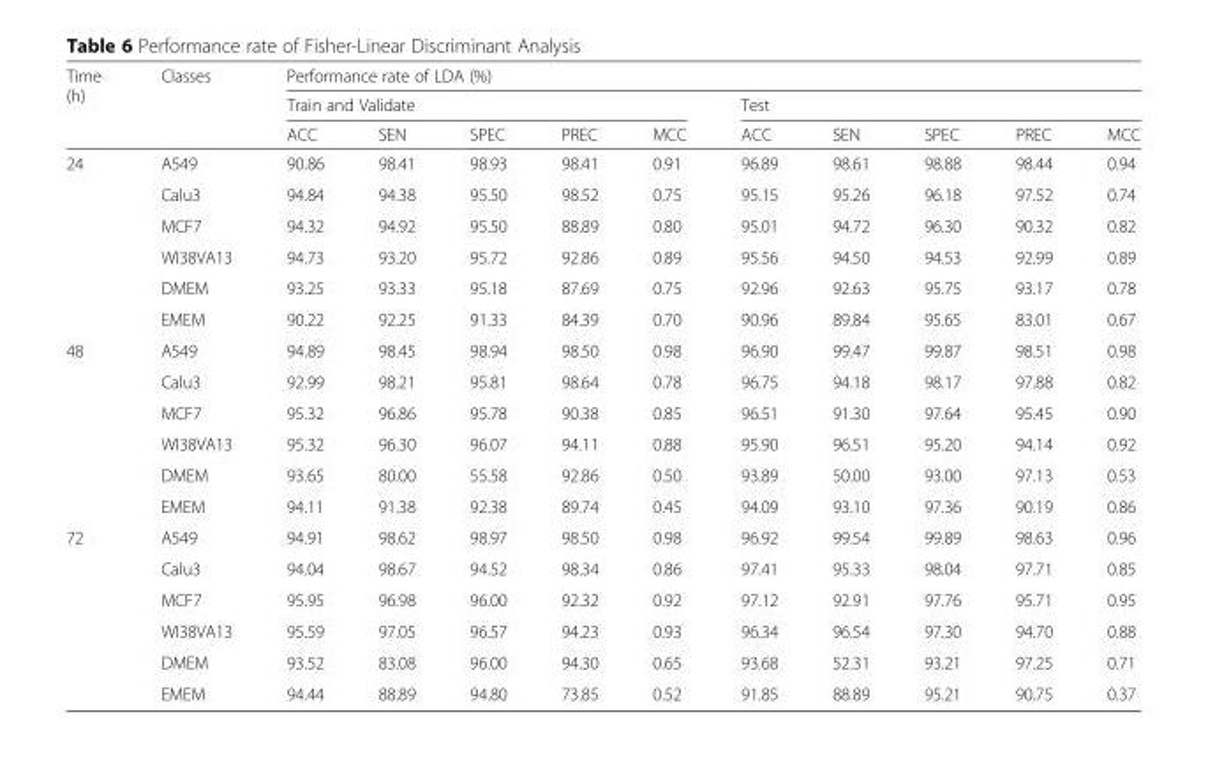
<table><thead><tr><td rowspan="3">Time (h)</td><td rowspan="3">Classes</td><td colspan="10">Performance rate of LDA (%)</td></tr><tr><td colspan="5">Train and Validate</td><td colspan="5">Test</td></tr><tr><td>ACC</td><td>SEN</td><td>SPEC</td><td>PREC</td><td>MCC</td><td>ACC</td><td>SEN</td><td>SPEC</td><td>PREC</td><td>MCC</td></tr></thead><tbody><tr><td rowspan="6">24</td><td>A549</td><td>90.86</td><td>98.41</td><td>98.93</td><td>98.41</td><td>0.91</td><td>96.89</td><td>98.61</td><td>98.88</td><td>98.44</td><td>0.94</td></tr><tr><td>Calu3</td><td>94.84</td><td>94.38</td><td>95.50</td><td>98.52</td><td>0.75</td><td>95.15</td><td>95.26</td><td>96.18</td><td>97.52</td><td>0.74</td></tr><tr><td>MCF7</td><td>94.32</td><td>94.92</td><td>95.50</td><td>88.89</td><td>0.80</td><td>95.01</td><td>94.72</td><td>96.30</td><td>90.32</td><td>0.82</td></tr><tr><td>WI38VA13</td><td>94.73</td><td>93.20</td><td>95.72</td><td>92.86</td><td>0.89</td><td>95.56</td><td>94.50</td><td>94.53</td><td>92.99</td><td>0.89</td></tr><tr><td>DMEM</td><td>93.25</td><td>93.33</td><td>95.18</td><td>87.69</td><td>0.75</td><td>92.96</td><td>92.63</td><td>95.75</td><td>93.17</td><td>0.78</td></tr><tr><td>EMEM</td><td>90.22</td><td>92.25</td><td>91.33</td><td>84.39</td><td>0.70</td><td>90.96</td><td>89.84</td><td>95.65</td><td>83.01</td><td>0.67</td></tr><tr><td rowspan="6">48</td><td>A549</td><td>94.89</td><td>98.45</td><td>98.94</td><td>98.50</td><td>0.98</td><td>96.90</td><td>99.47</td><td>99.87</td><td>98.51</td><td>0.98</td></tr><tr><td>Calu3</td><td>92.99</td><td>98.21</td><td>95.81</td><td>98.64</td><td>0.78</td><td>96.75</td><td>94.18</td><td>98.17</td><td>97.88</td><td>0.82</td></tr><tr><td>MCF7</td><td>95.32</td><td>96.86</td><td>95.78</td><td>90.38</td><td>0.85</td><td>96.51</td><td>91.30</td><td>97.64</td><td>95.45</td><td>0.90</td></tr><tr><td>WI38VA13</td><td>95.32</td><td>96.30</td><td>96.07</td><td>94.11</td><td>0.88</td><td>95.90</td><td>96.51</td><td>95.20</td><td>94.14</td><td>0.92</td></tr><tr><td>DMEM</td><td>93.65</td><td>80.00</td><td>55.58</td><td>92.86</td><td>0.50</td><td>93.89</td><td>50.00</td><td>93.00</td><td>97.13</td><td>0.53</td></tr><tr><td>EMEM</td><td>94.11</td><td>91.38</td><td>92.38</td><td>89.74</td><td>0.45</td><td>94.09</td><td>93.10</td><td>97.36</td><td>90.19</td><td>0.86</td></tr><tr><td rowspan="6">72</td><td>A549</td><td>94.91</td><td>98.62</td><td>98.97</td><td>98.50</td><td>0.98</td><td>96.92</td><td>99.54</td><td>99.89</td><td>98.63</td><td>0.96</td></tr><tr><td>Calu3</td><td>94.04</td><td>98.67</td><td>94.52</td><td>98.34</td><td>0.86</td><td>97.41</td><td>95.33</td><td>98.04</td><td>97.71</td><td>0.85</td></tr><tr><td>MCF7</td><td>95.95</td><td>96.98</td><td>96.00</td><td>92.32</td><td>0.92</td><td>97.12</td><td>92.91</td><td>97.76</td><td>95.71</td><td>0.95</td></tr><tr><td>WI38VA13</td><td>95.59</td><td>97.05</td><td>96.57</td><td>94.23</td><td>0.93</td><td>96.34</td><td>96.54</td><td>97.30</td><td>94.70</td><td>0.88</td></tr><tr><td>DMEM</td><td>93.52</td><td>83.08</td><td>96.00</td><td>94.30</td><td>0.65</td><td>93.68</td><td>52.31</td><td>93.21</td><td>97.25</td><td>0.71</td></tr><tr><td>EMEM</td><td>94.44</td><td>88.89</td><td>94.80</td><td>73.85</td><td>0.52</td><td>91.85</td><td>88.89</td><td>95.21</td><td>90.75</td><td>0.37</td></tr></tbody></table>